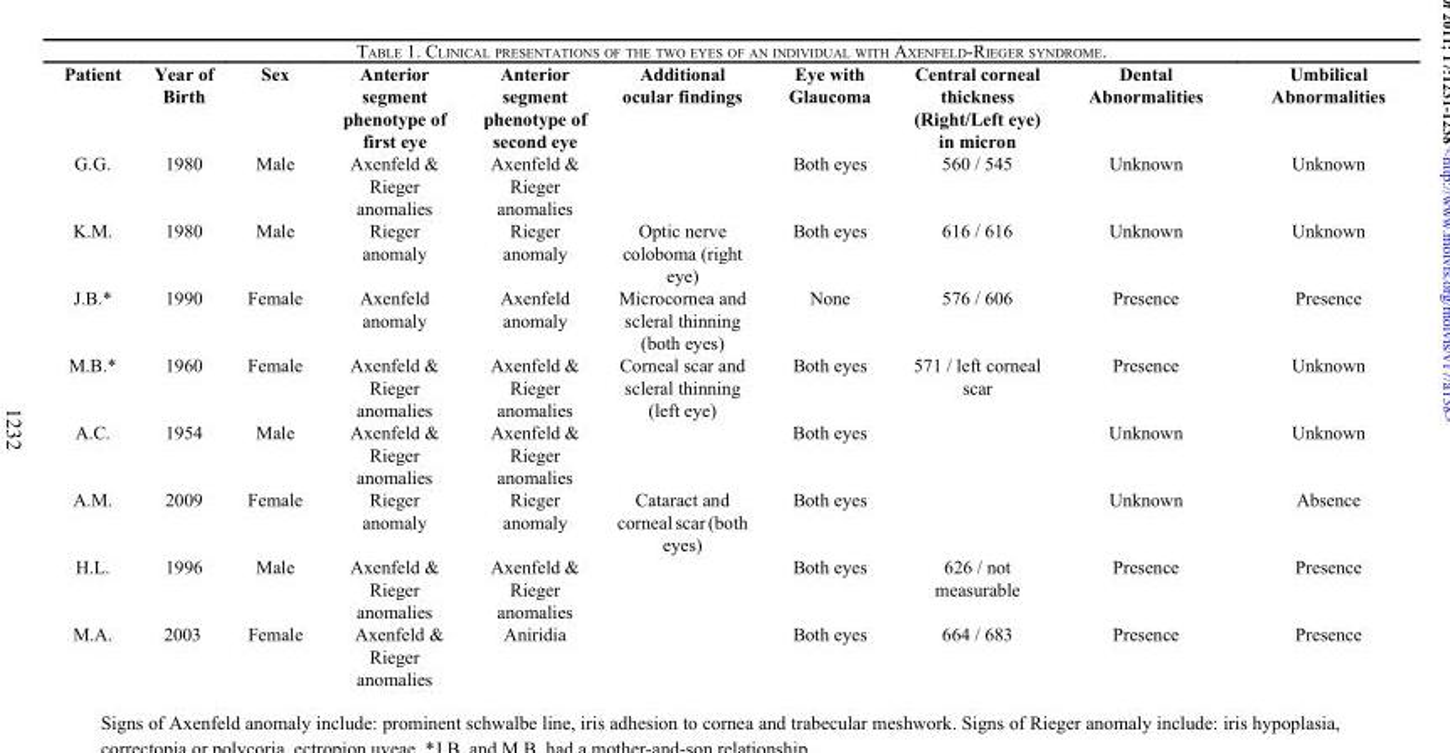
<table><thead><tr><td>Patient</td><td>Year of Birth</td><td>Sex</td><td>Anterior segment phenotype of first eye</td><td>Anterior segment phenotype of second eye</td><td>Additional ocular findings</td><td>Eye with Glaucoma</td><td>Central corneal thickness (Right/Left eye) in micron</td><td>Dental Abnormalities</td><td>Umbilical Abnormalities</td></tr></thead><tbody><tr><td>G.G.</td><td>1980</td><td>Male</td><td>Axenfeld &amp; Rieger anomalies</td><td>Axenfeld &amp; Rieger anomalies</td><td></td><td>Both eyes</td><td>560 / 545</td><td>Unknown</td><td>Unknown</td></tr><tr><td>K.M.</td><td>1980</td><td>Male</td><td>Rieger anomaly</td><td>Rieger anomaly</td><td>Optic nerve coloboma (right eye)</td><td>Both eyes</td><td>616 / 616</td><td>Unknown</td><td>Unknown</td></tr><tr><td>J.B.*</td><td>1990</td><td>Female</td><td>Axenfeld anomaly</td><td>Axenfeld anomaly</td><td>Microcornea and scleral thinning (both eyes)</td><td>None</td><td>576 / 606</td><td>Presence</td><td>Presence</td></tr><tr><td>M.B.*</td><td>1960</td><td>Female</td><td>Axenfeld &amp; Rieger anomalies</td><td>Axenfeld &amp; Rieger anomalies</td><td>Corneal scar and scleral thinning (left eye)</td><td>Both eyes</td><td>571 / left corneal scar</td><td>Presence</td><td>Unknown</td></tr><tr><td>A.C.</td><td>1954</td><td>Male</td><td>Axenfeld &amp; Rieger anomalies</td><td>Axenfeld &amp; Rieger anomalies</td><td></td><td>Both eyes</td><td></td><td>Unknown</td><td>Unknown</td></tr><tr><td>A.M.</td><td>2009</td><td>Female</td><td>Rieger anomaly</td><td>Rieger anomaly</td><td>Cataract and corneal scar (both eyes)</td><td>Both eyes</td><td></td><td>Unknown</td><td>Absence</td></tr><tr><td>H.L.</td><td>1996</td><td>Male</td><td>Axenfeld &amp; Rieger anomalies</td><td>Axenfeld &amp; Rieger anomalies</td><td></td><td>Both eyes</td><td>626 / not measurable</td><td>Presence</td><td>Presence</td></tr><tr><td>M.A.</td><td>2003</td><td>Female</td><td>Axenfeld &amp; Rieger anomalies</td><td>Aniridia</td><td></td><td>Both eyes</td><td>664 / 683</td><td>Presence</td><td>Presence</td></tr></tbody></table>